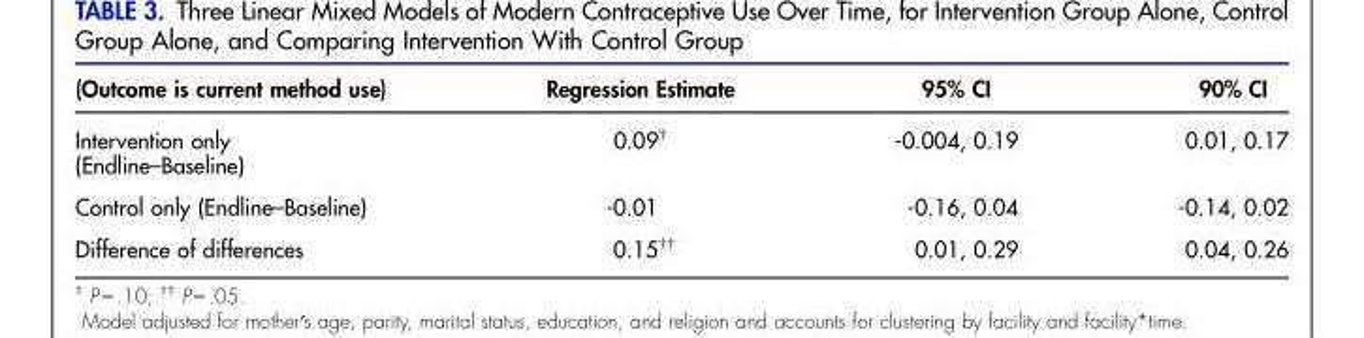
<table><thead><tr><td>(Outcome is current method use)</td><td>Regression Estimate</td><td>95% CI</td><td>90% CI</td></tr></thead><tbody><tr><td>Intervention only (Endline–Baseline)</td><td>0.09†</td><td>-0.004, 0.19</td><td>0.01, 0.17</td></tr><tr><td>Control only (Endline–Baseline)</td><td>-0.01</td><td>-0.16, 0.04</td><td>-0.14, 0.02</td></tr><tr><td>Difference of differences</td><td>0.15††</td><td>0.01, 0.29</td><td>0.04, 0.26</td></tr></tbody></table>